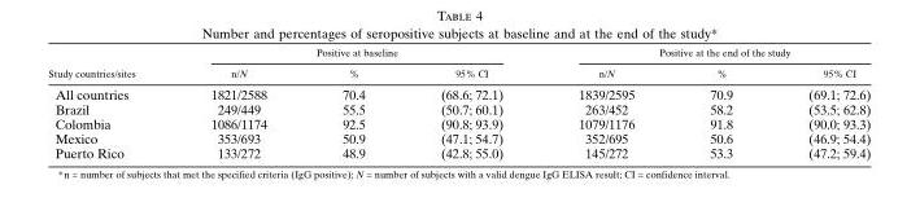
<table><thead><tr><td rowspan="2">Study countries/sites</td><td colspan="3">Positive at baseline</td><td colspan="3">Positive at the end of the study</td></tr><tr><td>n/N</td><td>%</td><td>95% CI</td><td>n/N</td><td>%</td><td>95% CI</td></tr></thead><tbody><tr><td>All countries</td><td>1821/2588</td><td>70.4</td><td>(68.6; 72.1)</td><td>1839/2595</td><td>70.9</td><td>(69.1; 72.6)</td></tr><tr><td>Brazil</td><td>249/449</td><td>55.5</td><td>(50.7; 60.1)</td><td>263/452</td><td>58.2</td><td>(53.5; 62.8)</td></tr><tr><td>Colombia</td><td>1086/1174</td><td>92.5</td><td>(90.8; 93.9)</td><td>1079/1176</td><td>91.8</td><td>(90.0; 93.3)</td></tr><tr><td>Mexico</td><td>353/693</td><td>50.9</td><td>(47.1; 54.7)</td><td>352/695</td><td>50.6</td><td>(46.9; 54.4)</td></tr><tr><td>Puerto Rico</td><td>133/272</td><td>48.9</td><td>(42.8; 55.0)</td><td>145/272</td><td>53.3</td><td>(47.2; 59.4)</td></tr></tbody></table>